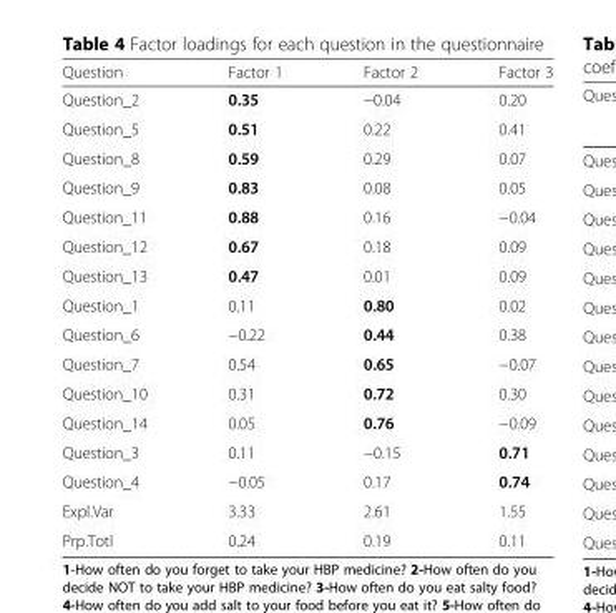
<table><thead><tr><td>Question</td><td>Factor 1</td><td>Factor 2</td><td>Factor 3</td></tr></thead><tbody><tr><td>Question_2</td><td>0.35</td><td>−0.04</td><td>0.20</td></tr><tr><td>Question_5</td><td>0.51</td><td>0.22</td><td>0.41</td></tr><tr><td>Question_8</td><td>0.59</td><td>0.29</td><td>0.07</td></tr><tr><td>Question_9</td><td>0.83</td><td>0.08</td><td>0.05</td></tr><tr><td>Question_11</td><td>0.88</td><td>0.16</td><td>−0.04</td></tr><tr><td>Question_12</td><td>0.67</td><td>0.18</td><td>0.09</td></tr><tr><td>Question_13</td><td>0.47</td><td>0.01</td><td>0.09</td></tr><tr><td>Question_1</td><td>0.11</td><td>0.80</td><td>0.02</td></tr><tr><td>Question_6</td><td>−0.22</td><td>0.44</td><td>0.38</td></tr><tr><td>Question_7</td><td>0.54</td><td>0.65</td><td>−0.07</td></tr><tr><td>Question_10</td><td>0.31</td><td>0.72</td><td>0.30</td></tr><tr><td>Question_14</td><td>0.05</td><td>0.76</td><td>−0.09</td></tr><tr><td>Question_3</td><td>0.11</td><td>−0.15</td><td>0.71</td></tr><tr><td>Question_4</td><td>−0.05</td><td>0.17</td><td>0.74</td></tr><tr><td>Expl.Var</td><td>3.33</td><td>2.61</td><td>1.55</td></tr><tr><td>Prp.Totl</td><td>0.24</td><td>0.19</td><td>0.11</td></tr></tbody></table>